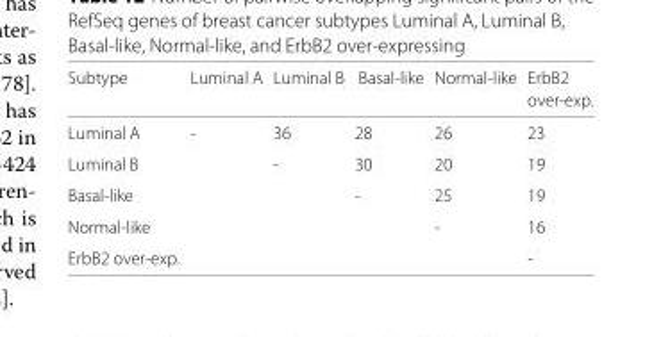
<table><thead><tr><td rowspan="2">Subtype</td><td rowspan="2">Luminal A</td><td rowspan="2">Luminal B</td><td rowspan="2">Basal-like</td><td rowspan="2">Normal-like</td><td rowspan="2">ErbB2 over-exp.</td></tr><tr></tr></thead><tbody><tr><td>Luminal A</td><td>-</td><td>36</td><td>28</td><td>26</td><td>23</td></tr><tr><td>Luminal B</td><td></td><td>-</td><td>30</td><td>20</td><td>19</td></tr><tr><td>Basal-like</td><td></td><td></td><td>-</td><td>25</td><td>19</td></tr><tr><td>Normal-like</td><td></td><td></td><td></td><td>-</td><td>16</td></tr><tr><td>ErbB2 over-exp.</td><td></td><td></td><td></td><td></td><td>-</td></tr></tbody></table>